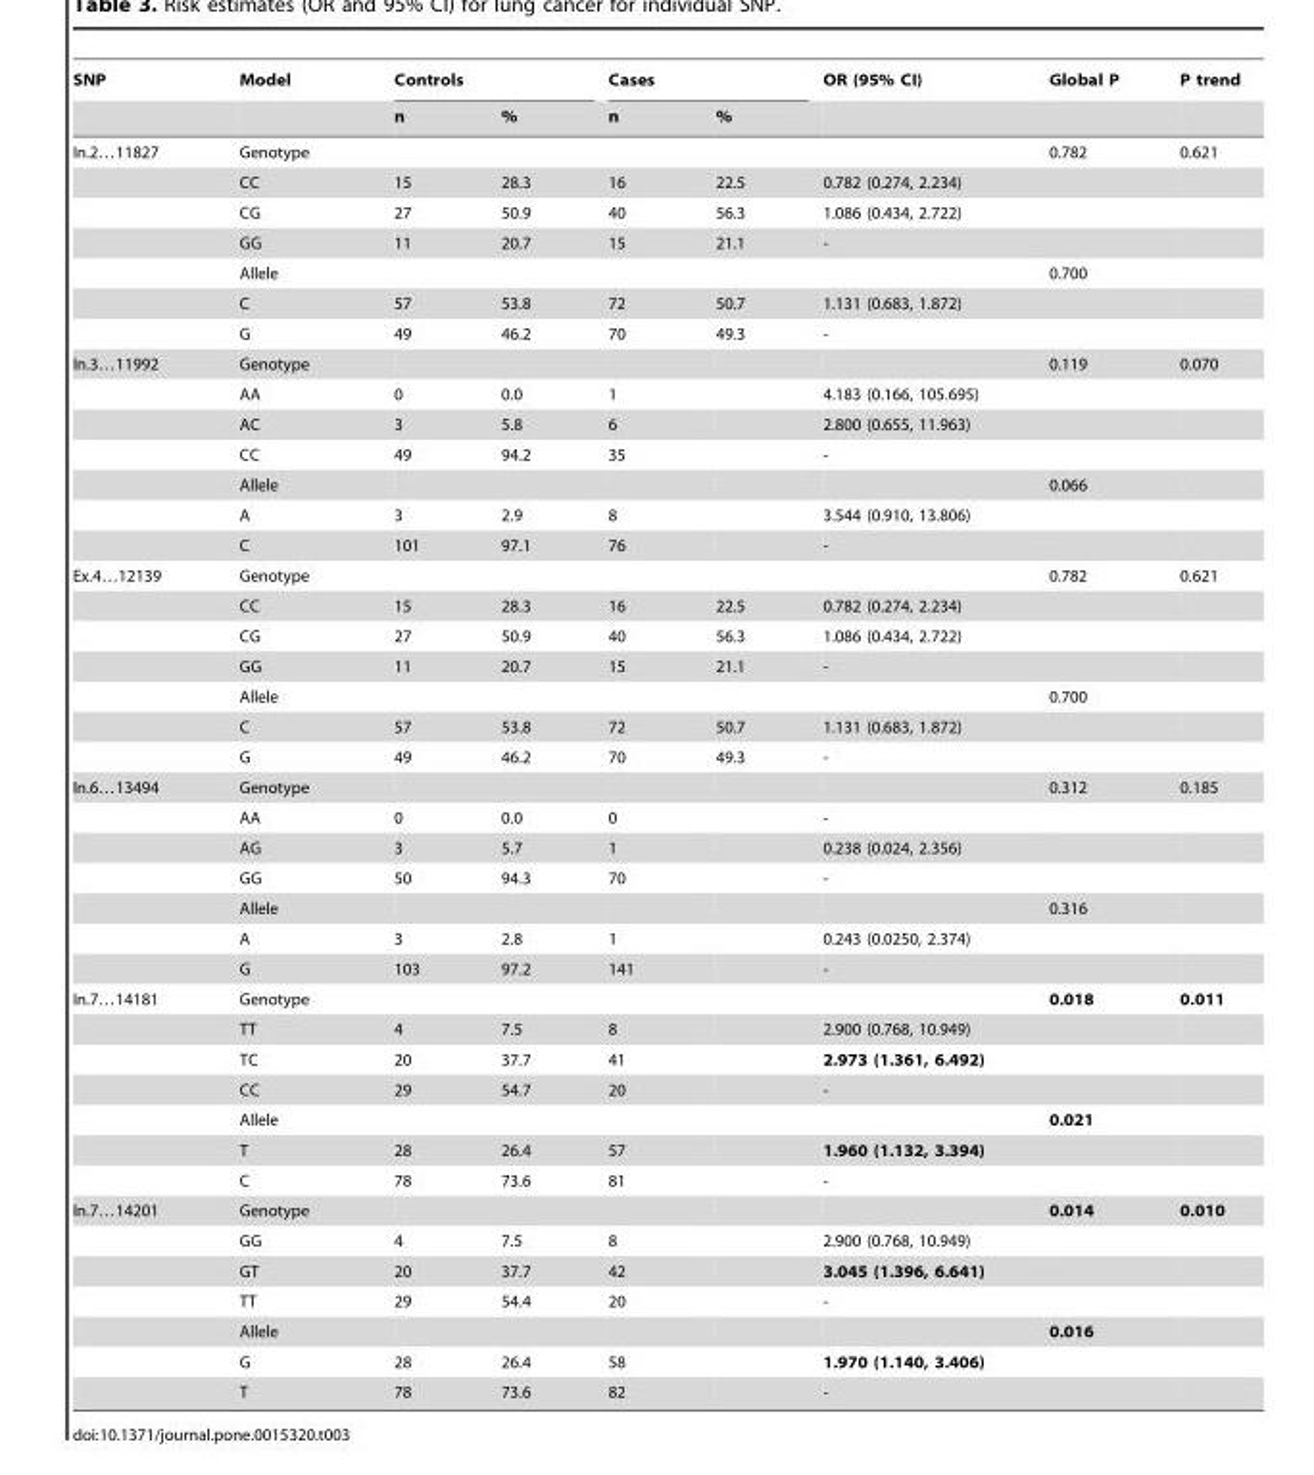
<table><thead><tr><td rowspan="2">SNP</td><td rowspan="2">Model</td><td colspan="2">Controls</td><td colspan="2">Cases</td><td rowspan="2">OR (95% CI)</td><td rowspan="2">Global P</td><td rowspan="2">P trend</td></tr><tr><td>n</td><td>%</td><td>n</td><td>%</td></tr></thead><tbody><tr><td rowspan="7">In.2…11827</td><td>Genotype</td><td></td><td></td><td></td><td></td><td></td><td>0.782</td><td>0.621</td></tr><tr><td>CC</td><td>15</td><td>28.3</td><td>16</td><td>22.5</td><td>0.782 (0.274, 2.234)</td><td></td><td></td></tr><tr><td>CG</td><td>27</td><td>50.9</td><td>40</td><td>56.3</td><td>1.086 (0.434, 2.722)</td><td></td><td></td></tr><tr><td>GG</td><td>11</td><td>20.7</td><td>15</td><td>21.1</td><td>-</td><td></td><td></td></tr><tr><td>Allele</td><td></td><td></td><td></td><td></td><td></td><td>0.700</td><td></td></tr><tr><td>C</td><td>57</td><td>53.8</td><td>72</td><td>50.7</td><td>1.131 (0.683, 1.872)</td><td></td><td></td></tr><tr><td>G</td><td>49</td><td>46.2</td><td>70</td><td>49.3</td><td>-</td><td></td><td></td></tr><tr><td rowspan="7">In.3…11992</td><td>Genotype</td><td></td><td></td><td></td><td></td><td></td><td>0.119</td><td>0.070</td></tr><tr><td>AA</td><td>0</td><td>0.0</td><td>1</td><td></td><td>4.183 (0.166, 105.695)</td><td></td><td></td></tr><tr><td>AC</td><td>3</td><td>5.8</td><td>6</td><td></td><td>2.800 (0.655, 11.963)</td><td></td><td></td></tr><tr><td>CC</td><td>49</td><td>94.2</td><td>35</td><td></td><td>-</td><td></td><td></td></tr><tr><td>Allele</td><td></td><td></td><td></td><td></td><td></td><td>0.066</td><td></td></tr><tr><td>A</td><td>3</td><td>2.9</td><td>8</td><td></td><td>3.544 (0.910, 13.806)</td><td></td><td></td></tr><tr><td>C</td><td>101</td><td>97.1</td><td>76</td><td></td><td>-</td><td></td><td></td></tr><tr><td rowspan="7">Ex.4…12139</td><td>Genotype</td><td></td><td></td><td></td><td></td><td></td><td>0.782</td><td>0.621</td></tr><tr><td>CC</td><td>15</td><td>28.3</td><td>16</td><td>22.5</td><td>0.782 (0.274, 2.234)</td><td></td><td></td></tr><tr><td>CG</td><td>27</td><td>50.9</td><td>40</td><td>56.3</td><td>1.086 (0.434, 2.722)</td><td></td><td></td></tr><tr><td>GG</td><td>11</td><td>20.7</td><td>15</td><td>21.1</td><td>-</td><td></td><td></td></tr><tr><td>Allele</td><td></td><td></td><td></td><td></td><td></td><td>0.700</td><td></td></tr><tr><td>C</td><td>57</td><td>53.8</td><td>72</td><td>50.7</td><td>1.131 (0.683, 1.872)</td><td></td><td></td></tr><tr><td>G</td><td>49</td><td>46.2</td><td>70</td><td>49.3</td><td>-</td><td></td><td></td></tr><tr><td rowspan="7">In.6…13494</td><td>Genotype</td><td></td><td></td><td></td><td></td><td></td><td>0.312</td><td>0.185</td></tr><tr><td>AA</td><td>0</td><td>0.0</td><td>0</td><td></td><td>-</td><td></td><td></td></tr><tr><td>AG</td><td>3</td><td>5.7</td><td>1</td><td></td><td>0.238 (0.024, 2.356)</td><td></td><td></td></tr><tr><td>GG</td><td>50</td><td>94.3</td><td>70</td><td></td><td>-</td><td></td><td></td></tr><tr><td>Allele</td><td></td><td></td><td></td><td></td><td></td><td>0.316</td><td></td></tr><tr><td>A</td><td>3</td><td>2.8</td><td>1</td><td></td><td>0.243 (0.0250, 2.374)</td><td></td><td></td></tr><tr><td>G</td><td>103</td><td>97.2</td><td>141</td><td></td><td>-</td><td></td><td></td></tr><tr><td rowspan="7">In.7…14181</td><td>Genotype</td><td></td><td></td><td></td><td></td><td></td><td>0.018</td><td>0.011</td></tr><tr><td>TT</td><td>4</td><td>7.5</td><td>8</td><td></td><td>2.900 (0.768, 10.949)</td><td></td><td></td></tr><tr><td>TC</td><td>20</td><td>37.7</td><td>41</td><td></td><td>2.973 (1.361, 6.492)</td><td></td><td></td></tr><tr><td>CC</td><td>29</td><td>54.7</td><td>20</td><td></td><td>-</td><td></td><td></td></tr><tr><td>Allele</td><td></td><td></td><td></td><td></td><td></td><td>0.021</td><td></td></tr><tr><td>T</td><td>28</td><td>26.4</td><td>57</td><td></td><td>1.960 (1.132, 3.394)</td><td></td><td></td></tr><tr><td>C</td><td>78</td><td>73.6</td><td>81</td><td></td><td>-</td><td></td><td></td></tr><tr><td rowspan="7">In.7…14201</td><td>Genotype</td><td></td><td></td><td></td><td></td><td></td><td>0.014</td><td>0.010</td></tr><tr><td>GG</td><td>4</td><td>7.5</td><td>8</td><td></td><td>2.900 (0.768, 10.949)</td><td></td><td></td></tr><tr><td>GT</td><td>20</td><td>37.7</td><td>42</td><td></td><td>3.045 (1.396, 6.641)</td><td></td><td></td></tr><tr><td>TT</td><td>29</td><td>54.4</td><td>20</td><td></td><td>-</td><td></td><td></td></tr><tr><td>Allele</td><td></td><td></td><td></td><td></td><td></td><td>0.016</td><td></td></tr><tr><td>G</td><td>28</td><td>26.4</td><td>58</td><td></td><td>1.970 (1.140, 3.406)</td><td></td><td></td></tr><tr><td>T</td><td>78</td><td>73.6</td><td>82</td><td></td><td>-</td><td></td><td></td></tr></tbody></table>